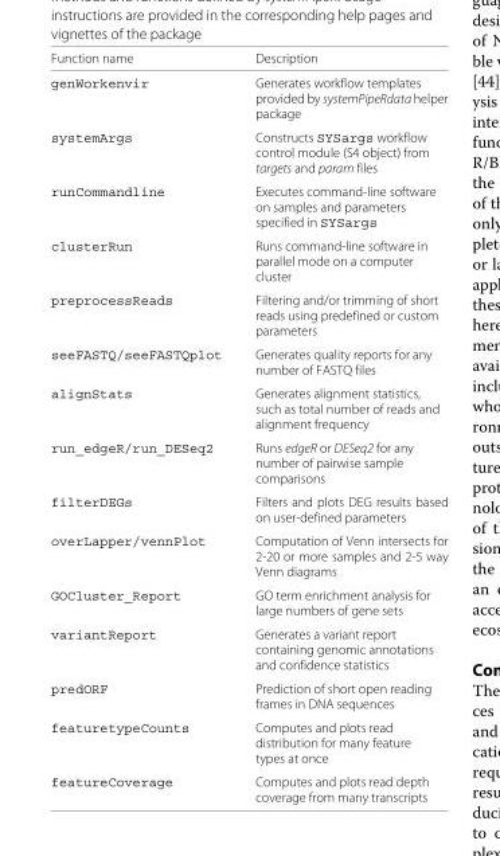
<table><thead><tr><td>Function name</td><td>Description</td></tr></thead><tbody><tr><td>genWorkenvir</td><td>Generates workflow templates provided by systemPipeRdata helper package</td></tr><tr><td>systemArgs</td><td>Constructs SYSargs workflow control module (S4 object) from targets and param files</td></tr><tr><td>runCommandline</td><td>Executes command-line software on samples and parameters specified in SYSargs</td></tr><tr><td>clusterRun</td><td>Runs command-line software in parallel mode on a computer cluster</td></tr><tr><td>preprocessReads</td><td>Filtering and/or trimming of short reads using predefined or custom parameters</td></tr><tr><td>seeFASTQ/seeFASTQplot</td><td>Generates quality reports for any number of FASTQ files</td></tr><tr><td>alignStats</td><td>Generates alignment statistics, such as total number of reads and alignment frequency</td></tr><tr><td>run_edgeR/run_DESeq2</td><td>Runs edgeR or DESeq2 for any number of pairwise sample comparisons</td></tr><tr><td>filterDEGs</td><td>Filters and plots DEG results based on user-defined parameters</td></tr><tr><td>overLapper/vennPlot</td><td>Computation of Venn intersects for 2-20 or more samples and 2-5 way Venn diagrams</td></tr><tr><td>GOCluster_Report</td><td>GO term enrichment analysis for large numbers of gene sets</td></tr><tr><td>variantReport</td><td>Generates a variant report containing genomic annotations and confidence statistics</td></tr><tr><td>predORF</td><td>Prediction of short open reading frames in DNA sequences</td></tr><tr><td>featuretypeCounts</td><td>Computes and plots read distribution for many feature types at once</td></tr><tr><td>featureCoverage</td><td>Computes and plots read depth coverage from many transcripts</td></tr></tbody></table>